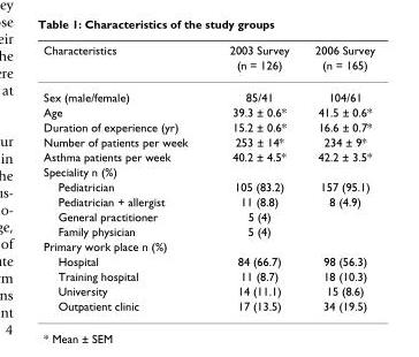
<table><thead><tr><td rowspan="2">Characteristics</td><td rowspan="2">2003 Survey (n = 126)</td><td rowspan="2">2006 Survey (n = 165)</td></tr><tr></tr></thead><tbody><tr><td>Sex (male/female)</td><td>85/41</td><td>104/61</td></tr><tr><td>Age</td><td>39.3 ± 0.6*</td><td>41.5 ± 0.6*</td></tr><tr><td>Duration of experience (yr)</td><td>15.2 ± 0.6*</td><td>16.6 ± 0.7*</td></tr><tr><td>Number of patients per week</td><td>253 ± 14*</td><td>234 ± 9*</td></tr><tr><td>Asthma patients per week</td><td>40.2 ± 4.5*</td><td>42.2 ± 3.5*</td></tr><tr><td colspan="3">Speciality n (%)</td></tr><tr><td>Pediatrician</td><td>105 (83.2)</td><td>157 (95.1)</td></tr><tr><td>Pediatrician + allergist</td><td>11 (8.8)</td><td>8 (4.9)</td></tr><tr><td>General practitioner</td><td>5 (4)</td><td></td></tr><tr><td>Family physician</td><td>5 (4)</td><td></td></tr><tr><td colspan="3">Primary work place n (%)</td></tr><tr><td>Hospital</td><td>84 (66.7)</td><td>98 (56.3)</td></tr><tr><td>Training hospital</td><td>11 (8.7)</td><td>18 (10.3)</td></tr><tr><td>University</td><td>14 (11.1)</td><td>15 (8.6)</td></tr><tr><td>Outpatient clinic</td><td>17 (13.5)</td><td>34 (19.5)</td></tr></tbody></table>